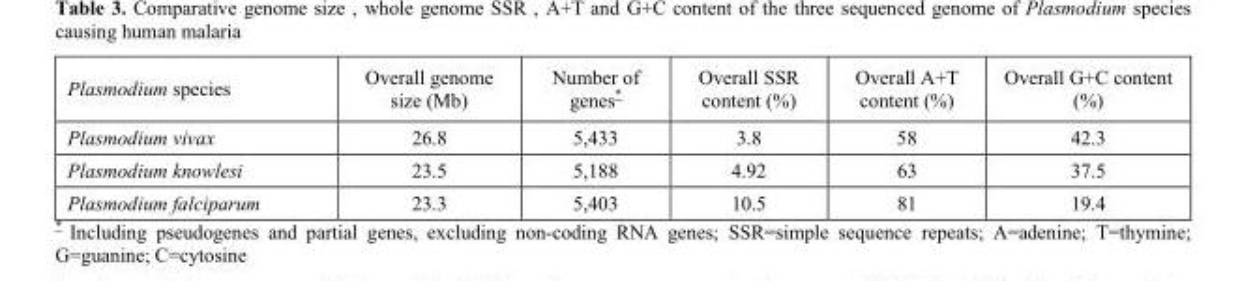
<table><thead><tr><td>Plasmodium species</td><td>Overall genome size (Mb)</td><td>Number of genes*</td><td>Overall SSR content (%)</td><td>Overall A+T content (%)</td><td>Overall G+C content (%)</td></tr></thead><tbody><tr><td>Plasmodium vivax</td><td>26.8</td><td>5,433</td><td>3.8</td><td>58</td><td>42.3</td></tr><tr><td>Plasmodium knowlesi</td><td>23.5</td><td>5,188</td><td>4.92</td><td>63</td><td>37.5</td></tr><tr><td>Plasmodium falciparum</td><td>23.3</td><td>5,403</td><td>10.5</td><td>81</td><td>19.4</td></tr></tbody></table>